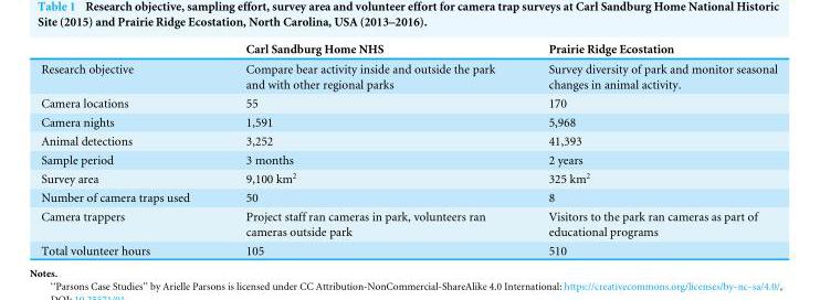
<table><thead><tr><td></td><td>Carl Sandburg Home NHS</td><td>Prairie Ridge Ecostation</td></tr></thead><tbody><tr><td>Research objective</td><td>Compare bear activity inside and outside the park and with other regional parks</td><td>Survey diversity of park and monitor seasonal changes in animal activity.</td></tr><tr><td>Camera locations</td><td>55</td><td>170</td></tr><tr><td>Camera nights</td><td>1,591</td><td>5,968</td></tr><tr><td>Animal detections</td><td>3,252</td><td>41,393</td></tr><tr><td>Sample period</td><td>3 months</td><td>2 years</td></tr><tr><td>Survey area</td><td>9,100 km<sup>2</sup></td><td>325 km<sup>2</sup></td></tr><tr><td>Number of camera traps used</td><td>50</td><td>8</td></tr><tr><td>Camera trappers</td><td>Project staff ran cameras in park, volunteers ran cameras outside park</td><td>Visitors to the park ran cameras as part of educational programs</td></tr><tr><td>Total volunteer hours</td><td>105</td><td>510</td></tr></tbody></table>